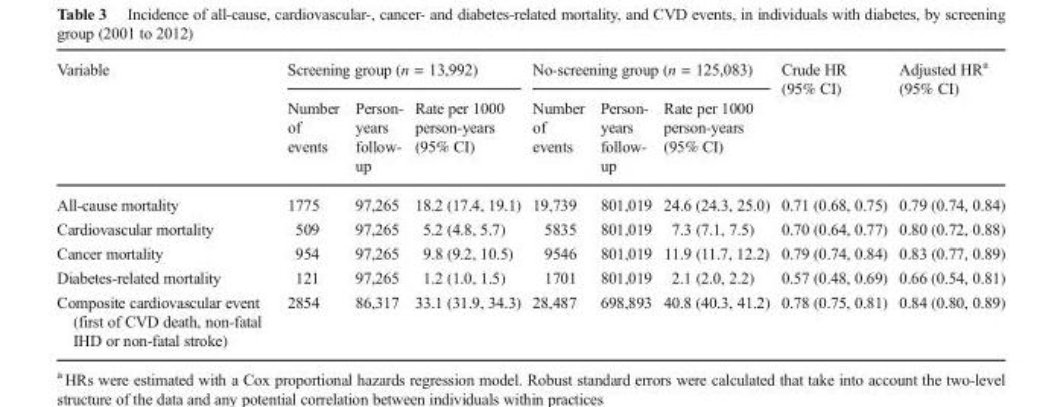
<table><thead><tr><td rowspan="2">Variable</td><td colspan="3">Screening group (n = 13,992)</td><td colspan="3">No-screening group (n = 125,083)</td><td rowspan="2">Crude HR (95% CI)</td><td rowspan="2">Adjusted HR<sup>a</sup> (95% CI)</td></tr><tr><td>Number of events</td><td>Person- years follow- up</td><td>Rate per 1000 person-years (95% CI)</td><td>Number of events</td><td>Person- years follow- up</td><td>Rate per 1000 person-years (95% CI)</td></tr></thead><tbody><tr><td>All-cause mortality</td><td>1775</td><td>97,265</td><td>18.2 (17.4, 19.1)</td><td>19,739</td><td>801,019</td><td>24.6 (24.3, 25.0)</td><td>0.71 (0.68, 0.75)</td><td>0.79 (0.74, 0.84)</td></tr><tr><td>Cardiovascular mortality</td><td>509</td><td>97,265</td><td>5.2 (4.8, 5.7)</td><td>5835</td><td>801,019</td><td>7.3 (7.1, 7.5)</td><td>0.70 (0.64, 0.77)</td><td>0.80 (0.72, 0.88)</td></tr><tr><td>Cancer mortality</td><td>954</td><td>97,265</td><td>9.8 (9.2, 10.5)</td><td>9546</td><td>801,019</td><td>11.9 (11.7, 12.2)</td><td>0.79 (0.74, 0.84)</td><td>0.83 (0.77, 0.89)</td></tr><tr><td>Diabetes-related mortality</td><td>121</td><td>97,265</td><td>1.2 (1.0, 1.5)</td><td>1701</td><td>801,019</td><td>2.1 (2.0, 2.2)</td><td>0.57 (0.48, 0.69)</td><td>0.66 (0.54, 0.81)</td></tr><tr><td>Composite cardiovascular event (first of CVD death, non-fatal IHD or non-fatal stroke)</td><td>2854</td><td>86,317</td><td>33.1 (31.9, 34.3)</td><td>28,487</td><td>698,893</td><td>40.8 (40.3, 41.2)</td><td>0.78 (0.75, 0.81)</td><td>0.84 (0.80, 0.89)</td></tr></tbody></table>